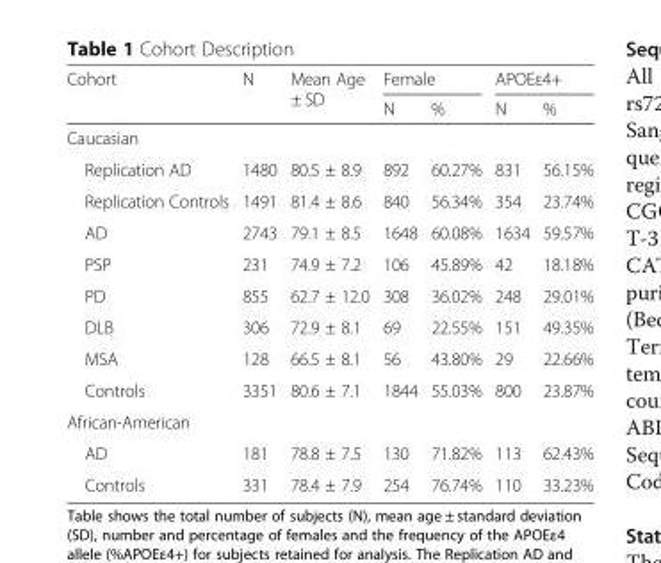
<table><thead><tr><td rowspan="2">Cohort</td><td rowspan="2">N</td><td rowspan="2">Mean Age ± SD</td><td colspan="2">Female</td><td colspan="2">APOEε4+</td></tr><tr><td>N</td><td>%</td><td>N</td><td>%</td></tr></thead><tbody><tr><td colspan="7">Caucasian</td></tr><tr><td>Replication AD</td><td>1480</td><td>80.5 ± 8.9</td><td>892</td><td>60.27%</td><td>831</td><td>56.15%</td></tr><tr><td>Replication Controls</td><td>1491</td><td>81.4 ± 8.6</td><td>840</td><td>56.34%</td><td>354</td><td>23.74%</td></tr><tr><td>AD</td><td>2743</td><td>79.1 ± 8.5</td><td>1648</td><td>60.08%</td><td>1634</td><td>59.57%</td></tr><tr><td>PSP</td><td>231</td><td>74.9 ± 7.2</td><td>106</td><td>45.89%</td><td>42</td><td>18.18%</td></tr><tr><td>PD</td><td>855</td><td>62.7 ± 12.0</td><td>308</td><td>36.02%</td><td>248</td><td>29.01%</td></tr><tr><td>DLB</td><td>306</td><td>72.9 ± 8.1</td><td>69</td><td>22.55%</td><td>151</td><td>49.35%</td></tr><tr><td>MSA</td><td>128</td><td>66.5 ± 8.1</td><td>56</td><td>43.80%</td><td>29</td><td>22.66%</td></tr><tr><td>Controls</td><td>3351</td><td>80.6 ± 7.1</td><td>1844</td><td>55.03%</td><td>800</td><td>23.87%</td></tr><tr><td colspan="7">African-American</td></tr><tr><td>AD</td><td>181</td><td>78.8 ± 7.5</td><td>130</td><td>71.82%</td><td>113</td><td>62.43%</td></tr><tr><td>Controls</td><td>331</td><td>78.4 ± 7.9</td><td>254</td><td>76.74%</td><td>110</td><td>33.23%</td></tr></tbody></table>